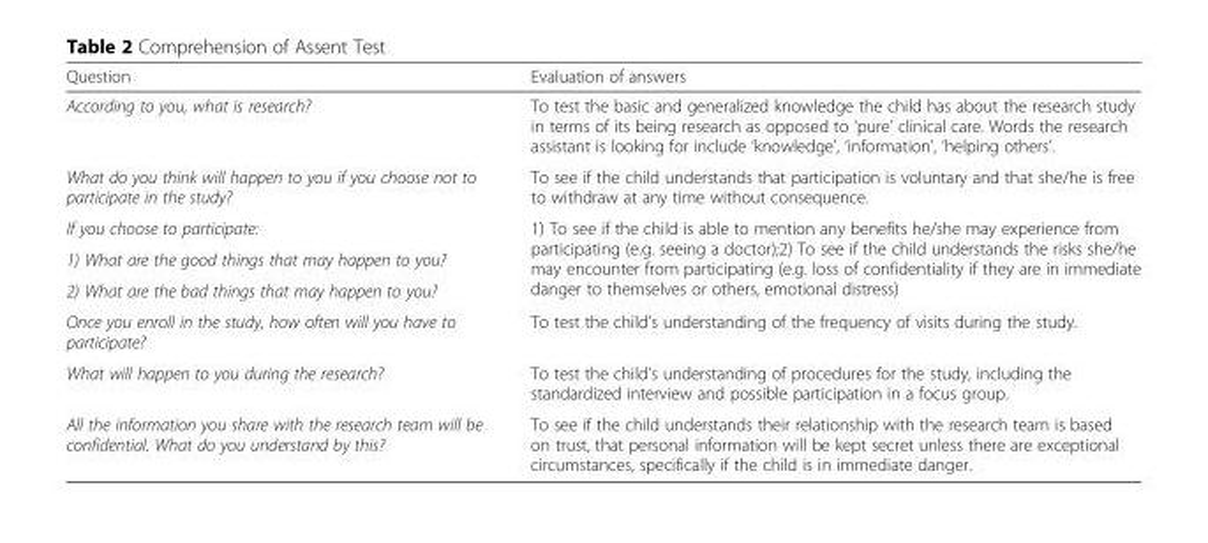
<table><thead><tr><td>Question</td><td>Evaluation of answers</td></tr></thead><tbody><tr><td>According to you, what is research?</td><td>To test the basic and generalized knowledge the child has about the research study in terms of its being research as opposed to ‘pure’ clinical care. Words the research assistant is looking for include ‘knowledge’, ‘information’, ‘helping others’.</td></tr><tr><td>What do you think will happen to you if you choose not to participate in the study?</td><td>To see if the child understands that participation is voluntary and that she/he is free to withdraw at any time without consequence.</td></tr><tr><td>If you choose to participate:</td><td rowspan="3">1) To see if the child is able to mention any benefits he/she may experience from participating (e.g. seeing a doctor);2) To see if the child understands the risks she/he may encounter from participating (e.g. loss of confidentiality if they are in immediate danger to themselves or others, emotional distress)</td></tr><tr><td>1) What are the good things that may happen to you?</td></tr><tr><td>2) What are the bad things that may happen to you?</td></tr><tr><td>Once you enroll in the study, how often will you have to participate?</td><td>To test the child’s understanding of the frequency of visits during the study.</td></tr><tr><td>What will happen to you during the research?</td><td>To test the child’s understanding of procedures for the study, including the standardized interview and possible participation in a focus group.</td></tr><tr><td>All the information you share with the research team will be confidential. What do you understand by this?</td><td>To see if the child understands their relationship with the research team is based on trust, that personal information will be kept secret unless there are exceptional circumstances, specifically if the child is in immediate danger.</td></tr></tbody></table>